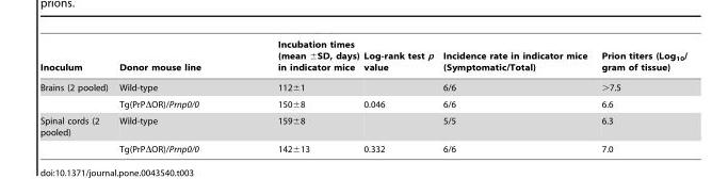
<table><thead><tr><td>Inoculum</td><td>Donor mouse line</td><td>Incubation times (mean ±SD, days) in indicator mice</td><td>Log-rank test p value</td><td>Incidence rate in indicator mice (Symptomatic/Total)</td><td>Prion titers (Log<sub>10</sub>/ gram of tissue)</td></tr></thead><tbody><tr><td rowspan="2">Brains (2 pooled)</td><td>Wild-type</td><td>112±1</td><td></td><td>6/6</td><td>&gt;7.5</td></tr><tr><td>Tg(PrPΔOR)/Prnp0/0</td><td>150±8</td><td>0.046</td><td>6/6</td><td>6.6</td></tr><tr><td rowspan="2">Spinal cords (2 pooled)</td><td>Wild-type</td><td>159±8</td><td></td><td>5/5</td><td>6.3</td></tr><tr><td>Tg(PrPΔOR)/Prnp0/0</td><td>142±13</td><td>0.332</td><td>6/6</td><td>7.0</td></tr></tbody></table>